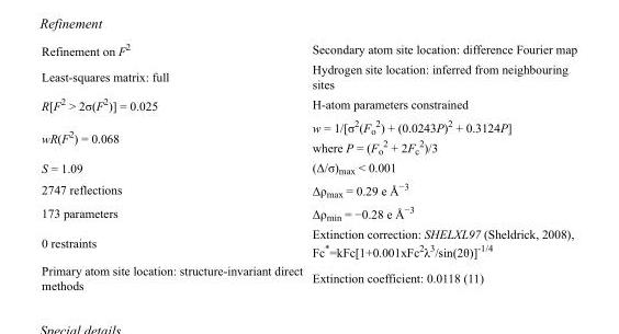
<table><tbody><tr><td>Refinement on F<sup>2</sup></td><td>Secondary atom site location: difference Fourier map</td></tr><tr><td>Least-squares matrix: full</td><td>Hydrogen site location: inferred from neighbouring sites</td></tr><tr><td>R[F<sup>2</sup> &gt; 2σ(F<sup>2</sup>)] = 0.025</td><td>H-atom parameters constrained</td></tr><tr><td>wR(F<sup>2</sup>) = 0.068</td><td>w = 1/[σ<sup>2</sup>(F<sub>o</sub> <sup>2</sup>) + (0.0243P)<sup>2</sup> + 0.3124P] where P = (F<sub>o</sub> <sup>2</sup> + 2F<sub>c</sub> <sup>2</sup>)/3</td></tr><tr><td>S = 1.09</td><td>(Δ/σ)<sub>max</sub> &lt; 0.001</td></tr><tr><td>2747 reflections</td><td>Δρ<sub>max</sub> = 0.29 e Å<sup>−3</sup></td></tr><tr><td>173 parameters</td><td>Δρ<sub>min</sub> = −0.28 e Å<sup>−3</sup></td></tr><tr><td>0 restraints</td><td>Extinction correction: SHELXL97 (Sheldrick, 2008), Fc*=kFc[1+0.001xFc<sup>2</sup>λ<sup>3</sup>/sin(2θ)]<sup>-1/4</sup></td></tr><tr><td>Primary atom site location: structure-invariant direct methods</td><td>Extinction coefficient: 0.0118 (11)</td></tr></tbody></table>